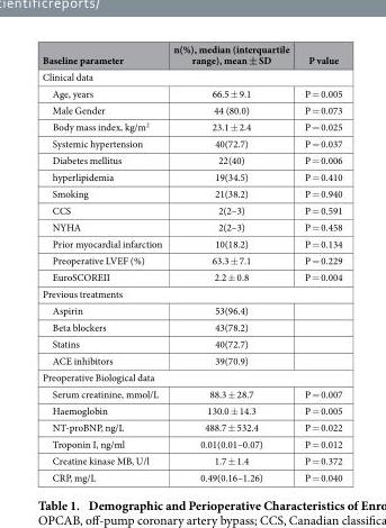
<table><thead><tr><td>Baseline parameter</td><td>n(%), median (interquartile range), mean ± SD</td><td>P value</td></tr></thead><tbody><tr><td colspan="3">Clinical data</td></tr><tr><td>Age, years</td><td>66.5 ± 9.1</td><td>P = 0.005</td></tr><tr><td>Male Gender</td><td>44 (80.0)</td><td>P = 0.073</td></tr><tr><td>Body mass index, kg/m<sup>2</sup></td><td>23.1 ± 2.4</td><td>P = 0.025</td></tr><tr><td>Systemic hypertension</td><td>40(72.7)</td><td>P = 0.037</td></tr><tr><td>Diabetes mellitus</td><td>22(40)</td><td>P = 0.006</td></tr><tr><td>hyperlipidemia</td><td>19(34.5)</td><td>P = 0.410</td></tr><tr><td>Smoking</td><td>21(38.2)</td><td>P = 0.940</td></tr><tr><td>CCS</td><td>2(2–3)</td><td>P = 0.591</td></tr><tr><td>NYHA</td><td>2(2–3)</td><td>P = 0.458</td></tr><tr><td>Prior myocardial infarction</td><td>10(18.2)</td><td>P = 0.134</td></tr><tr><td>Preoperative LVEF (%)</td><td>63.3 ± 7.1</td><td>P = 0.229</td></tr><tr><td>EuroSCOREII</td><td>2.2 ± 0.8</td><td>P = 0.004</td></tr><tr><td colspan="3">Previous treatments</td></tr><tr><td>Aspirin</td><td>53(96.4)</td><td></td></tr><tr><td>Beta blockers</td><td>43(78.2)</td><td></td></tr><tr><td>Statins</td><td>40(72.7)</td><td></td></tr><tr><td>ACE inhibitors</td><td>39(70.9)</td><td></td></tr><tr><td colspan="3">Preoperative Biological data</td></tr><tr><td>Serum creatinine, mmol/L</td><td>88.3 ± 28.7</td><td>P = 0.007</td></tr><tr><td>Haemoglobin</td><td>130.0 ± 14.3</td><td>P = 0.005</td></tr><tr><td>NT-proBNP, ng/L</td><td>488.7 ± 532.4</td><td>P = 0.022</td></tr><tr><td>Troponin I, ng/ml</td><td>0.01(0.01–0.07)</td><td>P = 0.012</td></tr><tr><td>Creatine kinase MB, U/l</td><td>1.7 ± 1.4</td><td>P = 0.372</td></tr><tr><td>CRP, mg/L</td><td>0.49(0.16–1.26)</td><td>P = 0.040</td></tr></tbody></table>